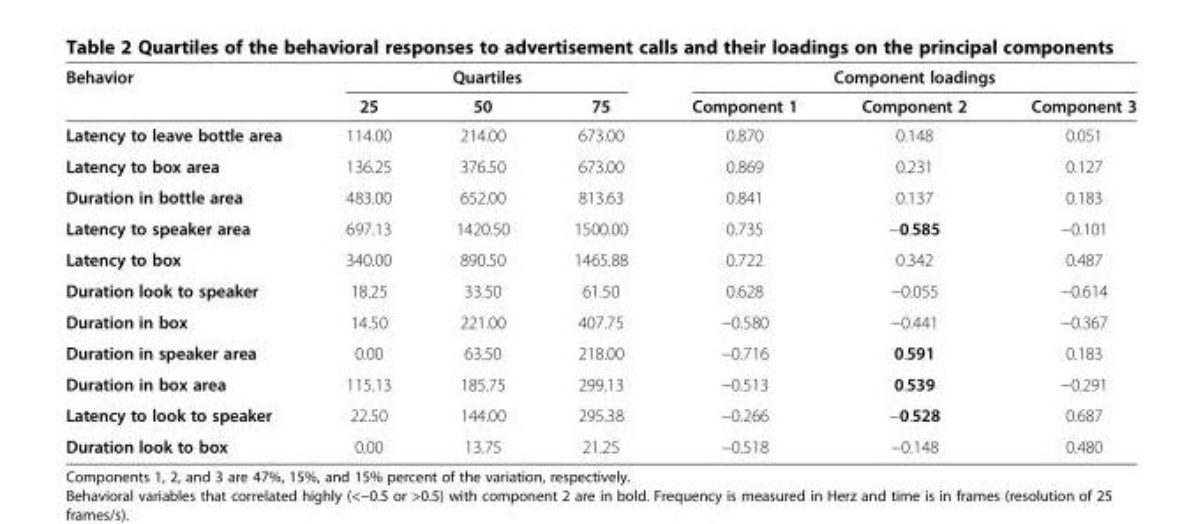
<table><thead><tr><td rowspan="2">Behavior</td><td colspan="3">Quartiles</td><td colspan="3">Component loadings</td></tr><tr><td>25</td><td>50</td><td>75</td><td>Component 1</td><td>Component 2</td><td>Component 3</td></tr></thead><tbody><tr><td>Latency to leave bottle area</td><td>114.00</td><td>214.00</td><td>673.00</td><td>0.870</td><td>0.148</td><td>0.051</td></tr><tr><td>Latency to box area</td><td>136.25</td><td>376.50</td><td>673.00</td><td>0.869</td><td>0.231</td><td>0.127</td></tr><tr><td>Duration in bottle area</td><td>483.00</td><td>652.00</td><td>813.63</td><td>0.841</td><td>0.137</td><td>0.183</td></tr><tr><td>Latency to speaker area</td><td>697.13</td><td>1420.50</td><td>1500.00</td><td>0.735</td><td>−0.585</td><td>−0.101</td></tr><tr><td>Latency to box</td><td>340.00</td><td>890.50</td><td>1465.88</td><td>0.722</td><td>0.342</td><td>0.487</td></tr><tr><td>Duration look to speaker</td><td>18.25</td><td>33.50</td><td>61.50</td><td>0.628</td><td>−0.055</td><td>−0.614</td></tr><tr><td>Duration in box</td><td>14.50</td><td>221.00</td><td>407.75</td><td>−0.580</td><td>−0.441</td><td>−0.367</td></tr><tr><td>Duration in speaker area</td><td>0.00</td><td>63.50</td><td>218.00</td><td>−0.716</td><td>0.591</td><td>0.183</td></tr><tr><td>Duration in box area</td><td>115.13</td><td>185.75</td><td>299.13</td><td>−0.513</td><td>0.539</td><td>−0.291</td></tr><tr><td>Latency to look to speaker</td><td>22.50</td><td>144.00</td><td>295.38</td><td>−0.266</td><td>−0.528</td><td>0.687</td></tr><tr><td>Duration look to box</td><td>0.00</td><td>13.75</td><td>21.25</td><td>−0.518</td><td>−0.148</td><td>0.480</td></tr></tbody></table>